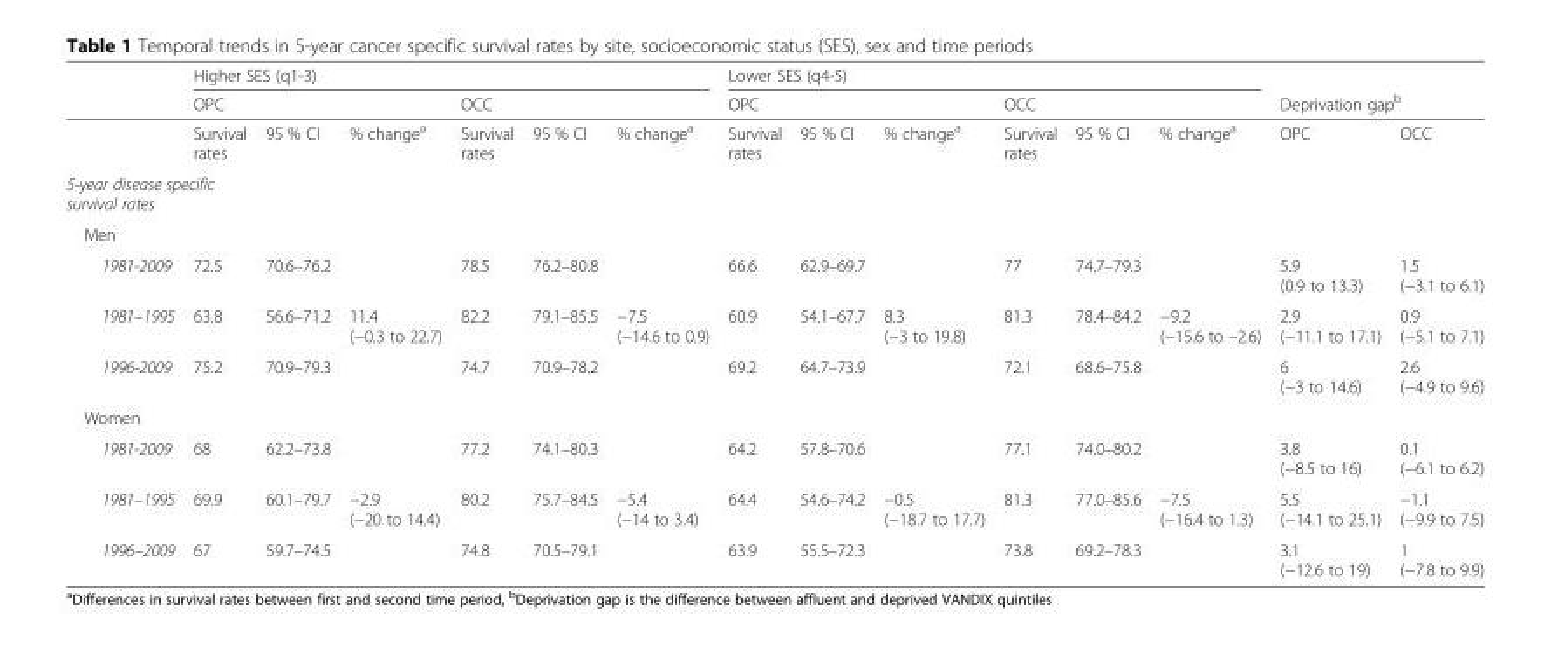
<table><thead><tr><td rowspan="3"></td><td colspan="6">Higher SES (q1-3)</td><td colspan="6">Lower SES (q4-5)</td><td></td><td></td></tr><tr><td colspan="3">OPC</td><td colspan="3">OCC</td><td colspan="3">OPC</td><td colspan="3">OCC</td><td colspan="2">Deprivation gap<sup>b</sup></td></tr><tr><td>Survival rates</td><td>95 % CI</td><td>% change<sup>a</sup></td><td>Survival rates</td><td>95 % CI</td><td>% change<sup>a</sup></td><td>Survival rates</td><td>95 % CI</td><td>% change<sup>a</sup></td><td>Survival rates</td><td>95 % CI</td><td>% change<sup>a</sup></td><td>OPC</td><td>OCC</td></tr></thead><tbody><tr><td colspan="15">5-year disease specific survival rates</td></tr><tr><td colspan="15">Men</td></tr><tr><td>1981-2009</td><td>72.5</td><td>70.6–76.2</td><td></td><td>78.5</td><td>76.2–80.8</td><td></td><td>66.6</td><td>62.9–69.7</td><td></td><td>77</td><td>74.7–79.3</td><td></td><td>5.9 (0.9 to 13.3)</td><td>1.5 (−3.1 to 6.1)</td></tr><tr><td>1981–1995</td><td>63.8</td><td>56.6–71.2</td><td rowspan="2">11.4 (−0.3 to 22.7)</td><td>82.2</td><td>79.1–85.5</td><td rowspan="2">−7.5 (−14.6 to 0.9)</td><td>60.9</td><td>54.1–67.7</td><td rowspan="2">8.3 (−3 to 19.8)</td><td>81.3</td><td>78.4–84.2</td><td rowspan="2">−9.2 (−15.6 to –2.6)</td><td>2.9 (−11.1 to 17.1)</td><td>0.9 (−5.1 to 7.1)</td></tr><tr><td>1996-2009</td><td>75.2</td><td>70.9–79.3</td><td>74.7</td><td>70.9–78.2</td><td>69.2</td><td>64.7–73.9</td><td>72.1</td><td>68.6–75.8</td><td>6 (−3 to 14.6)</td><td>2.6 (−4.9 to 9.6)</td></tr><tr><td colspan="15">Women</td></tr><tr><td>1981-2009</td><td>68</td><td>62.2–73.8</td><td></td><td>77.2</td><td>74.1–80.3</td><td></td><td>64.2</td><td>57.8–70.6</td><td></td><td>77.1</td><td>74.0–80.2</td><td></td><td>3.8 (−8.5 to 16)</td><td>0.1 (−6.1 to 6.2)</td></tr><tr><td>1981–1995</td><td>69.9</td><td>60.1–79.7</td><td rowspan="2">−2.9 (−20 to 14.4)</td><td>80.2</td><td>75.7–84.5</td><td rowspan="2">−5.4 (−14 to 3.4)</td><td>64.4</td><td>54.6–74.2</td><td rowspan="2">−0.5 (−18.7 to 17.7)</td><td>81.3</td><td>77.0–85.6</td><td rowspan="2">−7.5 (−16.4 to 1.3)</td><td>5.5 (−14.1 to 25.1)</td><td>−1.1 (−9.9 to 7.5)</td></tr><tr><td>1996–2009</td><td>67</td><td>59.7–74.5</td><td>74.8</td><td>70.5–79.1</td><td>63.9</td><td>55.5–72.3</td><td>73.8</td><td>69.2–78.3</td><td>3.1 (−12.6 to 19)</td><td>1 (−7.8 to 9.9)</td></tr></tbody></table>